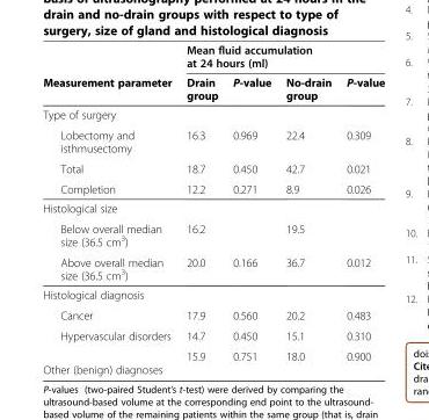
<table><thead><tr><td rowspan="2">Measurement parameter</td><td colspan="4">Mean fluid accumulation at 24 hours (ml)</td></tr><tr><td>Drain group</td><td>P-value</td><td>No-drain group</td><td>P-value</td></tr></thead><tbody><tr><td colspan="5">Type of surgery</td></tr><tr><td>Lobectomy and isthmusectomy</td><td>16.3</td><td>0.969</td><td>22.4</td><td>0.309</td></tr><tr><td>Total</td><td>18.7</td><td>0.450</td><td>42.7</td><td>0.021</td></tr><tr><td>Completion</td><td>12.2</td><td>0.271</td><td>8.9</td><td>0.026</td></tr><tr><td colspan="5">Histological size</td></tr><tr><td>Below overall median size (36.5 cm<sup>3</sup>)</td><td>16.2</td><td></td><td>19.5</td><td></td></tr><tr><td>Above overall median size (36.5 cm<sup>3</sup>)</td><td>20.0</td><td>0.166</td><td>36.7</td><td>0.012</td></tr><tr><td colspan="5">Histological diagnosis</td></tr><tr><td>Cancer</td><td>17.9</td><td>0.560</td><td>20.2</td><td>0.483</td></tr><tr><td>Hypervascular disorders</td><td>14.7</td><td>0.450</td><td>15.1</td><td>0.310</td></tr><tr><td>Other (benign) diagnoses</td><td>15.9</td><td>0.751</td><td>18.0</td><td>0.900</td></tr></tbody></table>